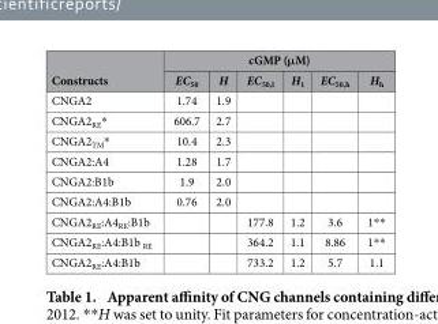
<table><thead><tr><td rowspan="2">Constructs</td><td colspan="6">cGMP (μM)</td></tr><tr><td>EC<sub>50</sub></td><td>H</td><td>EC<sub>50,l</sub></td><td>H<sub>1</sub></td><td>EC<sub>50,h</sub></td><td>H<sub>h</sub></td></tr></thead><tbody><tr><td>CNGA2</td><td>1.74</td><td>1.9</td><td></td><td></td><td></td><td></td></tr><tr><td>CNGA2<sub>RE</sub>*</td><td>606.7</td><td>2.7</td><td></td><td></td><td></td><td></td></tr><tr><td>CNGA2<sub>TM</sub>*</td><td>10.4</td><td>2.3</td><td></td><td></td><td></td><td></td></tr><tr><td>CNGA2:A4</td><td>1.28</td><td>1.7</td><td></td><td></td><td></td><td></td></tr><tr><td>CNGA2:B1b</td><td>1.9</td><td>2.0</td><td></td><td></td><td></td><td></td></tr><tr><td>CNGA2:A4:B1b</td><td>0.76</td><td>2.0</td><td></td><td></td><td></td><td></td></tr><tr><td>CNGA2<sub>RE</sub>:A4<sub>RE</sub>:B1b</td><td></td><td></td><td>177.8</td><td>1.2</td><td>3.6</td><td>1**</td></tr><tr><td>CNGA2<sub>RE</sub>:A4:B1b <sub>RE</sub></td><td></td><td></td><td>364.2</td><td>1.1</td><td>8.86</td><td>1**</td></tr><tr><td>CNGA2<sub>RE</sub>:A4:B1b</td><td></td><td></td><td>733.2</td><td>1.2</td><td>5.7</td><td>1.1</td></tr></tbody></table>